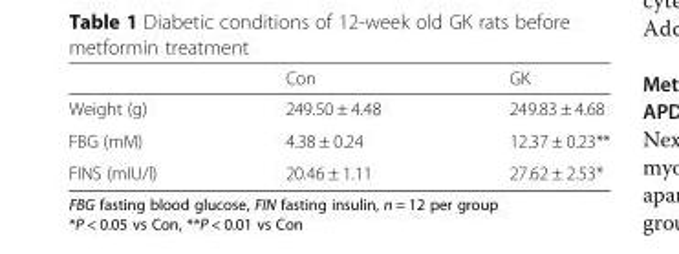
<table><thead><tr><td></td><td>Con</td><td>GK</td></tr></thead><tbody><tr><td>Weight (g)</td><td>249.50 ± 4.48</td><td>249.83 ± 4.68</td></tr><tr><td>FBG (mM)</td><td>4.38 ± 0.24</td><td>12.37 ± 0.23**</td></tr><tr><td>FINS (mIU/l)</td><td>20.46 ± 1.11</td><td>27.62 ± 2.53*</td></tr></tbody></table>